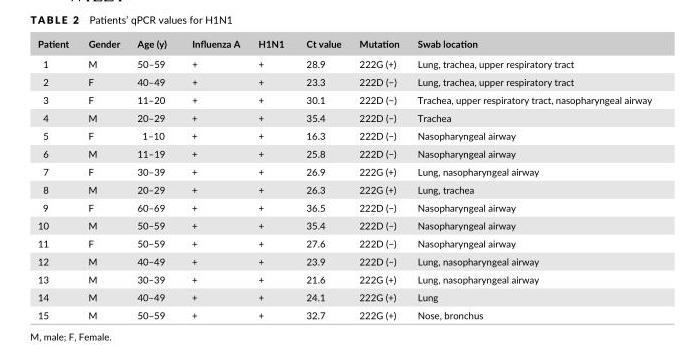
<table><thead><tr><td>Patient</td><td>Gender</td><td>Age (y)</td><td>Influenza A</td><td>H1N1</td><td>Ct value</td><td>Mutation</td><td>Swab location</td></tr></thead><tbody><tr><td>1</td><td>M</td><td>50–59</td><td>+</td><td>+</td><td>28.9</td><td>222G (+)</td><td>Lung, trachea, upper respiratory tract</td></tr><tr><td>2</td><td>F</td><td>40–49</td><td>+</td><td>+</td><td>23.3</td><td>222D (−)</td><td>Lung, trachea, upper respiratory tract</td></tr><tr><td>3</td><td>F</td><td>11–20</td><td>+</td><td>+</td><td>30.1</td><td>222D (−)</td><td>Trachea, upper respiratory tract, nasopharyngeal airway</td></tr><tr><td>4</td><td>M</td><td>20–29</td><td>+</td><td>+</td><td>35.4</td><td>222D (−)</td><td>Trachea</td></tr><tr><td>5</td><td>F</td><td>1–10</td><td>+</td><td>+</td><td>16.3</td><td>222D (−)</td><td>Nasopharyngeal airway</td></tr><tr><td>6</td><td>M</td><td>11–19</td><td>+</td><td>+</td><td>25.8</td><td>222D (−)</td><td>Nasopharyngeal airway</td></tr><tr><td>7</td><td>F</td><td>30–39</td><td>+</td><td>+</td><td>26.9</td><td>222G (+)</td><td>Lung, nasopharyngeal airway</td></tr><tr><td>8</td><td>M</td><td>20–29</td><td>+</td><td>+</td><td>26.3</td><td>222G (+)</td><td>Lung, trachea</td></tr><tr><td>9</td><td>F</td><td>60–69</td><td>+</td><td>+</td><td>36.5</td><td>222D (−)</td><td>Nasopharyngeal airway</td></tr><tr><td>10</td><td>M</td><td>50–59</td><td>+</td><td>+</td><td>35.4</td><td>222D (−)</td><td>Nasopharyngeal airway</td></tr><tr><td>11</td><td>F</td><td>50–59</td><td>+</td><td>+</td><td>27.6</td><td>222D (−)</td><td>Nasopharyngeal airway</td></tr><tr><td>12</td><td>M</td><td>40–49</td><td>+</td><td>+</td><td>23.9</td><td>222D (−)</td><td>Lung, nasopharyngeal airway</td></tr><tr><td>13</td><td>M</td><td>30–39</td><td>+</td><td>+</td><td>21.6</td><td>222G (+)</td><td>Lung, nasopharyngeal airway</td></tr><tr><td>14</td><td>M</td><td>40–49</td><td>+</td><td>+</td><td>24.1</td><td>222G (+)</td><td>Lung</td></tr><tr><td>15</td><td>M</td><td>50–59</td><td>+</td><td>+</td><td>32.7</td><td>222G (+)</td><td>Nose, bronchus</td></tr></tbody></table>